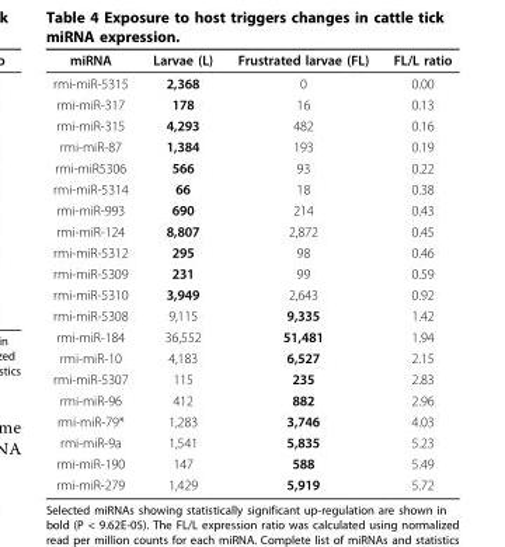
<table><thead><tr><td>miRNA</td><td>Larvae (L)</td><td>Frustrated larvae (FL)</td><td>FL/L ratio</td></tr></thead><tbody><tr><td>rmi-miR-5315</td><td>2,368</td><td>0</td><td>0.00</td></tr><tr><td>rmi-miR-317</td><td>178</td><td>16</td><td>0.13</td></tr><tr><td>rmi-miR-315</td><td>4,293</td><td>482</td><td>0.16</td></tr><tr><td>rmi-miR-87</td><td>1,384</td><td>193</td><td>0.19</td></tr><tr><td>rmi-miR5306</td><td>566</td><td>93</td><td>0.22</td></tr><tr><td>rmi-miR-5314</td><td>66</td><td>18</td><td>0.38</td></tr><tr><td>rmi-miR-993</td><td>690</td><td>214</td><td>0.43</td></tr><tr><td>rmi-miR-124</td><td>8,807</td><td>2,872</td><td>0.45</td></tr><tr><td>rmi-miR-5312</td><td>295</td><td>98</td><td>0.46</td></tr><tr><td>rmi-miR-5309</td><td>231</td><td>99</td><td>0.59</td></tr><tr><td>rmi-miR-5310</td><td>3,949</td><td>2,643</td><td>0.92</td></tr><tr><td>rmi-miR-5308</td><td>9,115</td><td>9,335</td><td>1.42</td></tr><tr><td>rmi-miR-184</td><td>36,552</td><td>51,481</td><td>1.94</td></tr><tr><td>rmi-miR-10</td><td>4,183</td><td>6,527</td><td>2.15</td></tr><tr><td>rmi-miR-5307</td><td>115</td><td>235</td><td>2.83</td></tr><tr><td>rmi-miR-96</td><td>412</td><td>882</td><td>2.96</td></tr><tr><td>rmi-miR-79*</td><td>1,283</td><td>3,746</td><td>4.03</td></tr><tr><td>rmi-miR-9a</td><td>1,541</td><td>5,835</td><td>5.23</td></tr><tr><td>rmi-miR-190</td><td>147</td><td>588</td><td>5.49</td></tr><tr><td>rmi-miR-279</td><td>1,429</td><td>5,919</td><td>5.72</td></tr></tbody></table>